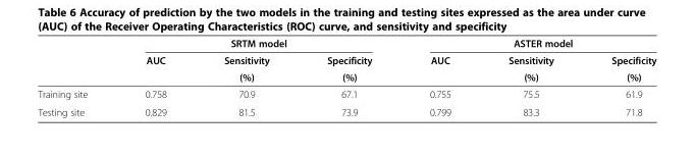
<table><thead><tr><td rowspan="3"></td><td colspan="3">SRTM model</td><td colspan="3">ASTER model</td></tr><tr><td rowspan="2">AUC</td><td rowspan="2">Sensitivity (%)</td><td rowspan="2">Specificity (%)</td><td rowspan="2">AUC</td><td rowspan="2">Sensitivity (%)</td><td rowspan="2">Specificity (%)</td></tr><tr></tr></thead><tbody><tr><td>Training site</td><td>0.758</td><td>70.9</td><td>67.1</td><td>0.755</td><td>75.5</td><td>61.9</td></tr><tr><td>Testing site</td><td>0.829</td><td>81.5</td><td>73.9</td><td>0.799</td><td>83.3</td><td>71.8</td></tr></tbody></table>